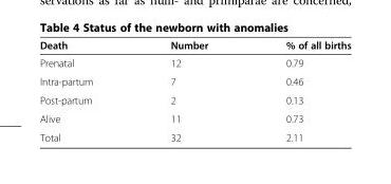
<table><thead><tr><td>Death</td><td>Number</td><td>% of all births</td></tr></thead><tbody><tr><td>Prenatal</td><td>12</td><td>0.79</td></tr><tr><td>Intra-partum</td><td>7</td><td>0.46</td></tr><tr><td>Post-partum</td><td>2</td><td>0.13</td></tr><tr><td>Alive</td><td>11</td><td>0.73</td></tr><tr><td>Total</td><td>32</td><td>2.11</td></tr></tbody></table>